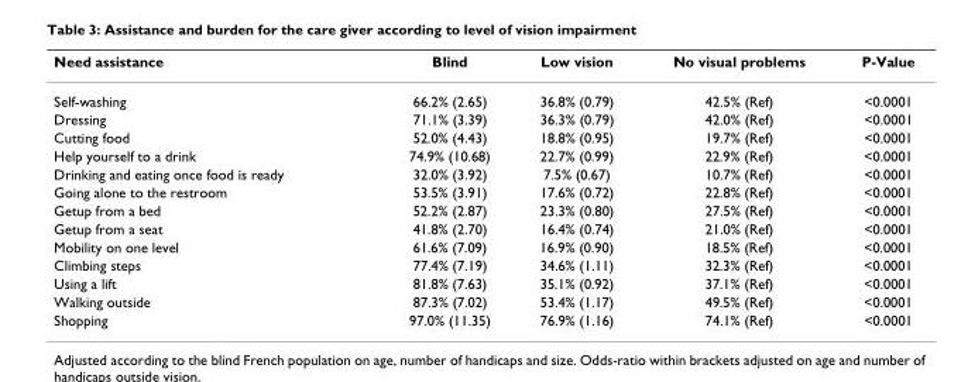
<table><thead><tr><td>Need assistance</td><td>Blind</td><td>Low vision</td><td>No visual problems</td><td>P-Value</td></tr></thead><tbody><tr><td>Self-washing</td><td>66.2% (2.65)</td><td>36.8% (0.79)</td><td>42.5% (Ref)</td><td>&lt;0.0001</td></tr><tr><td>Dressing</td><td>71.1% (3.39)</td><td>36.3% (0.79)</td><td>42.0% (Ref)</td><td>&lt;0.0001</td></tr><tr><td>Cutting food</td><td>52.0% (4.43)</td><td>18.8% (0.95)</td><td>19.7% (Ref)</td><td>&lt;0.0001</td></tr><tr><td>Help yourself to a drink</td><td>74.9% (10.68)</td><td>22.7% (0.99)</td><td>22.9% (Ref)</td><td>&lt;0.0001</td></tr><tr><td>Drinking and eating once food is ready</td><td>32.0% (3.92)</td><td>7.5% (0.67)</td><td>10.7% (Ref)</td><td>&lt;0.0001</td></tr><tr><td>Going alone to the restroom</td><td>53.5% (3.91)</td><td>17.6% (0.72)</td><td>22.8% (Ref)</td><td>&lt;0.0001</td></tr><tr><td>Getup from a bed</td><td>52.2% (2.87)</td><td>23.3% (0.80)</td><td>27.5% (Ref)</td><td>&lt;0.0001</td></tr><tr><td>Getup from a seat</td><td>41.8% (2.70)</td><td>16.4% (0.74)</td><td>21.0% (Ref)</td><td>&lt;0.0001</td></tr><tr><td>Mobility on one level</td><td>61.6% (7.09)</td><td>16.9% (0.90)</td><td>18.5% (Ref)</td><td>&lt;0.0001</td></tr><tr><td>Climbing steps</td><td>77.4% (7.19)</td><td>34.6% (1.11)</td><td>32.3% (Ref)</td><td>&lt;0.0001</td></tr><tr><td>Using a lift</td><td>81.8% (7.63)</td><td>35.1% (0.92)</td><td>37.1% (Ref)</td><td>&lt;0.0001</td></tr><tr><td>Walking outside</td><td>87.3% (7.02)</td><td>53.4% (1.17)</td><td>49.5% (Ref)</td><td>&lt;0.0001</td></tr><tr><td>Shopping</td><td>97.0% (11.35)</td><td>76.9% (1.16)</td><td>74.1% (Ref)</td><td>&lt;0.0001</td></tr></tbody></table>